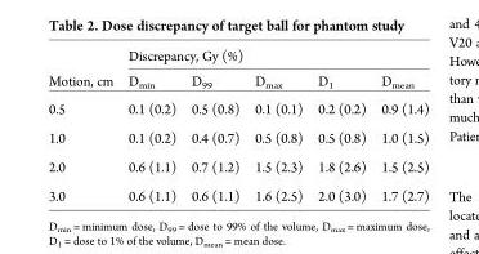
<table><thead><tr><td rowspan="2">Motion, cm</td><td colspan="5">Discrepancy, Gy (%)</td></tr><tr><td>D<sub>min</sub></td><td>D<sub>99</sub></td><td>D<sub>max</sub></td><td>D<sub>1</sub></td><td>D<sub>mean</sub></td></tr></thead><tbody><tr><td>0.5</td><td>0.1 (0.2)</td><td>0.5 (0.8)</td><td>0.1 (0.1)</td><td>0.2 (0.2)</td><td>0.9 (1.4)</td></tr><tr><td>1.0</td><td>0.1 (0.2)</td><td>0.4 (0.7)</td><td>0.5 (0.8)</td><td>0.5 (0.8)</td><td>1.0 (1.5)</td></tr><tr><td>2.0</td><td>0.6 (1.1)</td><td>0.7 (1.2)</td><td>1.5 (2.3)</td><td>1.8 (2.6)</td><td>1.5 (2.5)</td></tr><tr><td>3.0</td><td>0.6 (1.1)</td><td>0.6 (1.1)</td><td>1.6 (2.5)</td><td>2.0 (3.0)</td><td>1.7 (2.7)</td></tr></tbody></table>